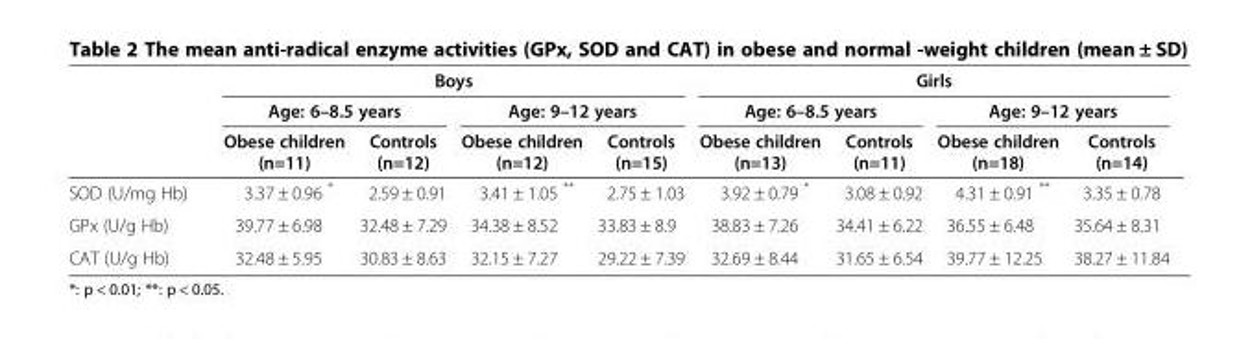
<table><thead><tr><td rowspan="3"></td><td colspan="4">Boys</td><td colspan="4">Girls</td></tr><tr><td colspan="2">Age: 6–8.5 years</td><td colspan="2">Age: 9–12 years</td><td colspan="2">Age: 6–8.5 years</td><td colspan="2">Age: 9–12 years</td></tr><tr><td>Obese children (n=11)</td><td>Controls (n=12)</td><td>Obese children (n=12)</td><td>Controls (n=15)</td><td>Obese children (n=13)</td><td>Controls (n=11)</td><td>Obese children (n=18)</td><td>Controls (n=14)</td></tr></thead><tbody><tr><td>SOD (U/mg Hb)</td><td>3.37 ± 0.96 *</td><td>2.59 ± 0.91</td><td>3.41 ± 1.05 **</td><td>2.75 ± 1.03</td><td>3.92 ± 0.79 *</td><td>3.08 ± 0.92</td><td>4.31 ± 0.91 **</td><td>3.35 ± 0.78</td></tr><tr><td>GPx (U/g Hb)</td><td>39.77 ± 6.98</td><td>32.48 ± 7.29</td><td>34.38 ± 8.52</td><td>33.83 ± 8.9</td><td>38.83 ± 7.26</td><td>34.41 ± 6.22</td><td>36.55 ± 6.48</td><td>35.64 ± 8.31</td></tr><tr><td>CAT (U/g Hb)</td><td>32.48 ± 5.95</td><td>30.83 ± 8.63</td><td>32.15 ± 7.27</td><td>29.22 ± 7.39</td><td>32.69 ± 8.44</td><td>31.65 ± 6.54</td><td>39.77 ± 12.25</td><td>38.27 ± 11.84</td></tr></tbody></table>